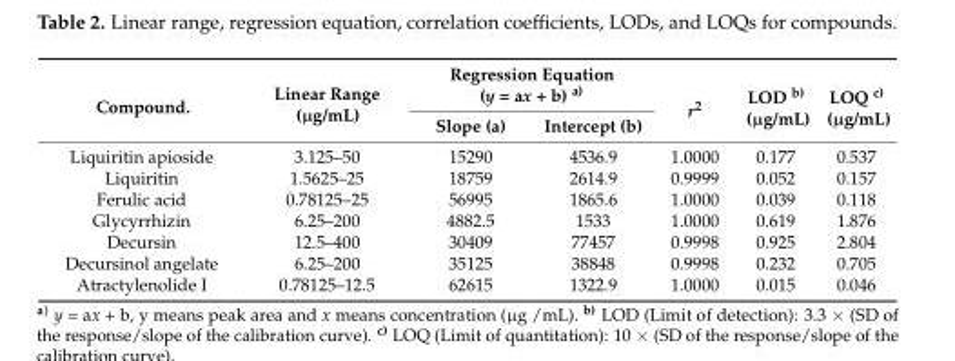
<table><thead><tr><td rowspan="2">Compound.</td><td rowspan="2">Linear Range (µg/mL)</td><td colspan="2">Regression Equation (y = ax + b) <sup>a)</sup></td><td rowspan="2">r<sup>2</sup></td><td rowspan="2">LOD <sup>b)</sup> (µg/mL)</td><td rowspan="2">LOQ <sup>c)</sup> (µg/mL)</td></tr><tr><td>Slope (a)</td><td>Intercept (b)</td></tr></thead><tbody><tr><td>Liquiritin apioside</td><td>3.125–50</td><td>15290</td><td>4536.9</td><td>1.0000</td><td>0.177</td><td>0.537</td></tr><tr><td>Liquiritin</td><td>1.5625–25</td><td>18759</td><td>2614.9</td><td>0.9999</td><td>0.052</td><td>0.157</td></tr><tr><td>Ferulic acid</td><td>0.78125–25</td><td>56995</td><td>1865.6</td><td>1.0000</td><td>0.039</td><td>0.118</td></tr><tr><td>Glycyrrhizin</td><td>6.25–200</td><td>4882.5</td><td>1533</td><td>1.0000</td><td>0.619</td><td>1.876</td></tr><tr><td>Decursin</td><td>12.5–400</td><td>30409</td><td>77457</td><td>0.9998</td><td>0.925</td><td>2.804</td></tr><tr><td>Decursinol angelate</td><td>6.25–200</td><td>35125</td><td>38848</td><td>0.9998</td><td>0.232</td><td>0.705</td></tr><tr><td>Atractylenolide I</td><td>0.78125–12.5</td><td>62615</td><td>1322.9</td><td>1.0000</td><td>0.015</td><td>0.046</td></tr></tbody></table>